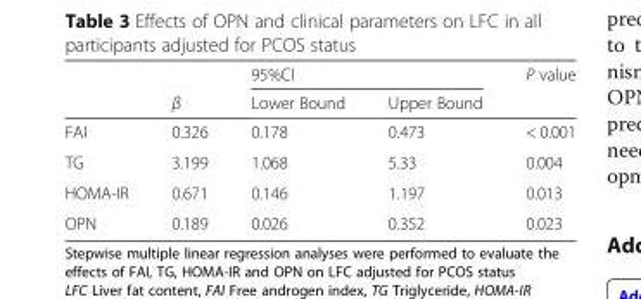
<table><thead><tr><td rowspan="2"></td><td rowspan="2">β</td><td colspan="2">95%CI</td><td rowspan="2">P value</td></tr><tr><td>Lower Bound</td><td>Upper Bound</td></tr></thead><tbody><tr><td>FAI</td><td>0.326</td><td>0.178</td><td>0.473</td><td>&lt; 0.001</td></tr><tr><td>TG</td><td>3.199</td><td>1.068</td><td>5.33</td><td>0.004</td></tr><tr><td>HOMA-IR</td><td>0.671</td><td>0.146</td><td>1.197</td><td>0.013</td></tr><tr><td>OPN</td><td>0.189</td><td>0.026</td><td>0.352</td><td>0.023</td></tr></tbody></table>